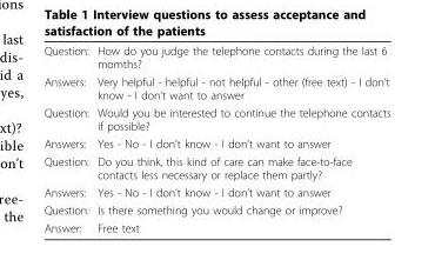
<table><tbody><tr><td>Question:</td><td>How do you judge the telephone contacts during the last 6 momths?</td></tr><tr><td>Answers:</td><td>Very helpful - helpful - not helpful - other (free text) - I don’t know - I don’t want to answer</td></tr><tr><td>Question:</td><td>Would you be interested to continue the telephone contacts if possible?</td></tr><tr><td>Answers:</td><td>Yes - No - I don’t know - I don’t want to answer</td></tr><tr><td>Question:</td><td>Do you think, this kind of care can make face-to-face contacts less necessary or replace them partly?</td></tr><tr><td>Answers:</td><td>Yes - No - I don’t know - I don’t want to answer</td></tr><tr><td>Question:</td><td>Is there something you would change or improve?</td></tr><tr><td>Answer:</td><td>Free text</td></tr></tbody></table>